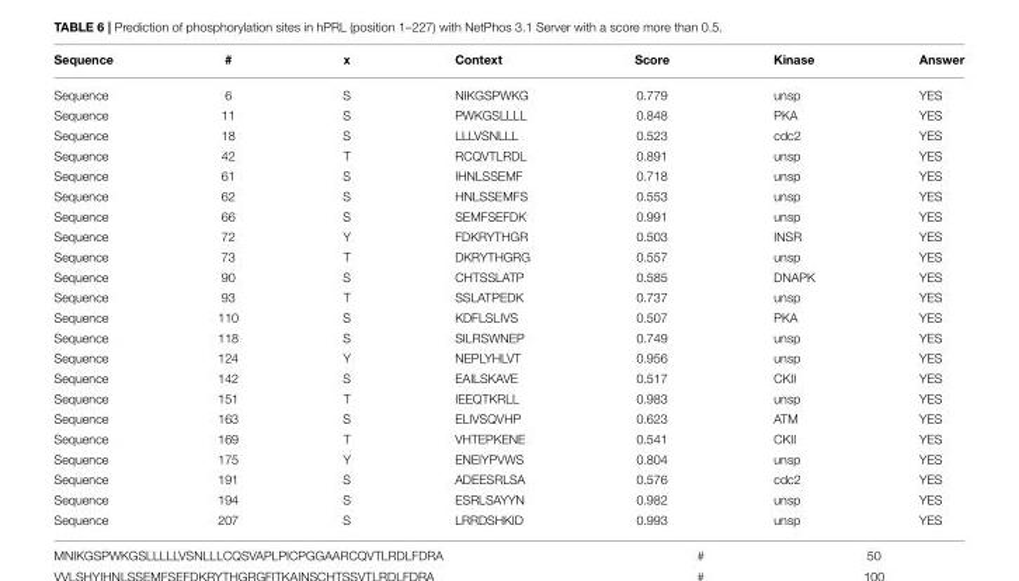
<table><thead><tr><td>Sequence</td><td>#</td><td>x</td><td>Context</td><td>Score</td><td>Kinase</td><td>Answer</td></tr></thead><tbody><tr><td>Sequence</td><td>6</td><td>S</td><td>NIKGSPWKG</td><td>0.779</td><td>unsp</td><td>YES</td></tr><tr><td>Sequence</td><td>11</td><td>S</td><td>PWKGSLLLL</td><td>0.848</td><td>PKA</td><td>YES</td></tr><tr><td>Sequence</td><td>18</td><td>S</td><td>LLLVSNLLL</td><td>0.523</td><td>cdc2</td><td>YES</td></tr><tr><td>Sequence</td><td>42</td><td>T</td><td>RCQVTLRDL</td><td>0.891</td><td>unsp</td><td>YES</td></tr><tr><td>Sequence</td><td>61</td><td>S</td><td>IHNLSSEMF</td><td>0.718</td><td>unsp</td><td>YES</td></tr><tr><td>Sequence</td><td>62</td><td>S</td><td>HNLSSEMFS</td><td>0.553</td><td>unsp</td><td>YES</td></tr><tr><td>Sequence</td><td>66</td><td>S</td><td>SEMFSEFDK</td><td>0.991</td><td>unsp</td><td>YES</td></tr><tr><td>Sequence</td><td>72</td><td>Y</td><td>FDKRYTHGR</td><td>0.503</td><td>INSR</td><td>YES</td></tr><tr><td>Sequence</td><td>73</td><td>T</td><td>DKRYTHGRG</td><td>0.557</td><td>unsp</td><td>YES</td></tr><tr><td>Sequence</td><td>90</td><td>S</td><td>CHTSSLATP</td><td>0.585</td><td>DNAPK</td><td>YES</td></tr><tr><td>Sequence</td><td>93</td><td>T</td><td>SSLATPEDK</td><td>0.737</td><td>unsp</td><td>YES</td></tr><tr><td>Sequence</td><td>110</td><td>S</td><td>KDFLSLIVS</td><td>0.507</td><td>PKA</td><td>YES</td></tr><tr><td>Sequence</td><td>118</td><td>S</td><td>SILRSWNEP</td><td>0.749</td><td>unsp</td><td>YES</td></tr><tr><td>Sequence</td><td>124</td><td>Y</td><td>NEPLYHLVT</td><td>0.956</td><td>unsp</td><td>YES</td></tr><tr><td>Sequence</td><td>142</td><td>S</td><td>EAILSKAVE</td><td>0.517</td><td>CKII</td><td>YES</td></tr><tr><td>Sequence</td><td>151</td><td>T</td><td>IEEQTKRLL</td><td>0.983</td><td>unsp</td><td>YES</td></tr><tr><td>Sequence</td><td>163</td><td>S</td><td>ELIVSQVHP</td><td>0.623</td><td>ATM</td><td>YES</td></tr><tr><td>Sequence</td><td>169</td><td>T</td><td>VHTEPKENE</td><td>0.541</td><td>CKII</td><td>YES</td></tr><tr><td>Sequence</td><td>175</td><td>Y</td><td>ENEIYPVWS</td><td>0.804</td><td>unsp</td><td>YES</td></tr><tr><td>Sequence</td><td>191</td><td>S</td><td>ADEESRLSA</td><td>0.576</td><td>cdc2</td><td>YES</td></tr><tr><td>Sequence</td><td>194</td><td>S</td><td>ESRLSAYYN</td><td>0.982</td><td>unsp</td><td>YES</td></tr><tr><td>Sequence</td><td>207</td><td>S</td><td>LRRDSHKID</td><td>0.993</td><td>unsp</td><td>YES</td></tr></tbody></table>